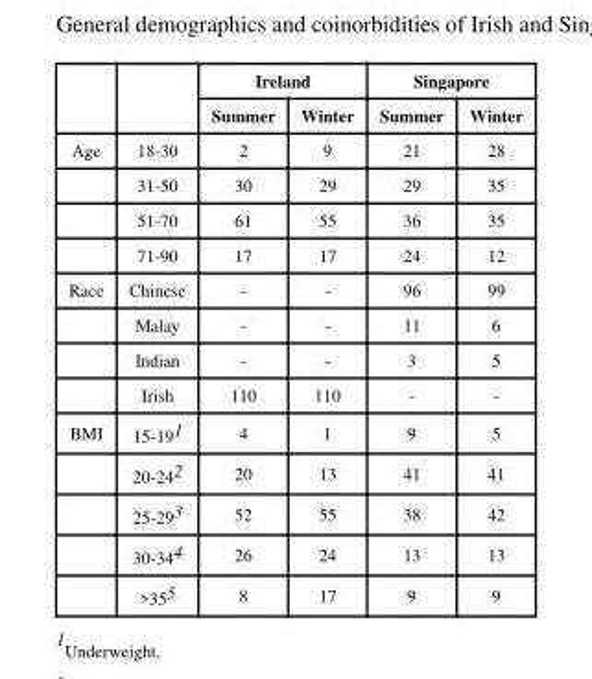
<table><thead><tr><td rowspan="2"></td><td rowspan="2"></td><td colspan="2">Ireland</td><td colspan="2">Singapore</td></tr><tr><td>Summer</td><td>Winter</td><td>Summer</td><td>Winter</td></tr></thead><tbody><tr><td rowspan="4">Age</td><td>18-30</td><td>2</td><td>9</td><td>21</td><td>28</td></tr><tr><td>31-50</td><td>30</td><td>29</td><td>29</td><td>35</td></tr><tr><td>51-70</td><td>61</td><td>55</td><td>36</td><td>35</td></tr><tr><td>71-90</td><td>17</td><td>17</td><td>24</td><td>12</td></tr><tr><td rowspan="4">Race</td><td>Chinese</td><td>-</td><td>-</td><td>96</td><td>99</td></tr><tr><td>Malay</td><td>-</td><td>-</td><td>11</td><td>6</td></tr><tr><td>Indian</td><td>-</td><td>-</td><td>3</td><td>5</td></tr><tr><td>Irish</td><td>110</td><td>110</td><td>-</td><td>-</td></tr><tr><td rowspan="5">BMI</td><td>15-19<sup>1</sup></td><td>4</td><td>1</td><td>9</td><td>5</td></tr><tr><td>20-24<sup>2</sup></td><td>20</td><td>13</td><td>41</td><td>41</td></tr><tr><td>25-29<sup>3</sup></td><td>52</td><td>55</td><td>38</td><td>42</td></tr><tr><td>30-34<sup>4</sup></td><td>26</td><td>24</td><td>13</td><td>13</td></tr><tr><td>&gt;35<sup>5</sup></td><td>8</td><td>17</td><td>9</td><td>9</td></tr></tbody></table>